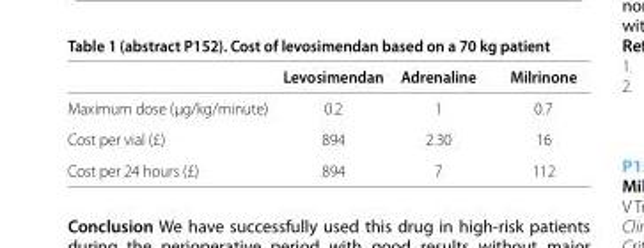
<table><thead><tr><td></td><td>Levosimendan</td><td>Adrenaline</td><td>Milrinone</td></tr></thead><tbody><tr><td>Maximum dose (μg/kg/minute)</td><td>0.2</td><td>1</td><td>0.7</td></tr><tr><td>Cost per vial (£)</td><td>894</td><td>2.30</td><td>16</td></tr><tr><td>Cost per 24 hours (£)</td><td>894</td><td>7</td><td>112</td></tr></tbody></table>